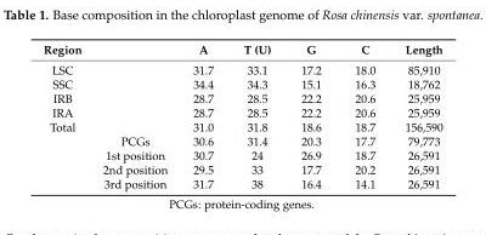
<table><thead><tr><td>Region</td><td></td><td>A</td><td>T (U)</td><td>G</td><td>C</td><td>Length</td></tr></thead><tbody><tr><td>LSC</td><td></td><td>31.7</td><td>33.1</td><td>17.2</td><td>18.0</td><td>85,910</td></tr><tr><td>SSC</td><td></td><td>34.4</td><td>34.3</td><td>15.1</td><td>16.3</td><td>18,762</td></tr><tr><td>IRB</td><td></td><td>28.7</td><td>28.5</td><td>22.2</td><td>20.6</td><td>25,959</td></tr><tr><td>IRA</td><td></td><td>28.7</td><td>28.5</td><td>22.2</td><td>20.6</td><td>25,959</td></tr><tr><td rowspan="5">Total</td><td></td><td>31.0</td><td>31.8</td><td>18.6</td><td>18.7</td><td>156,590</td></tr><tr><td>PCGs</td><td>30.6</td><td>31.4</td><td>20.3</td><td>17.7</td><td>79,773</td></tr><tr><td>1st position</td><td>30.7</td><td>24</td><td>26.9</td><td>18.7</td><td>26,591</td></tr><tr><td>2nd position</td><td>29.5</td><td>33</td><td>17.7</td><td>20.2</td><td>26,591</td></tr><tr><td>3rd position</td><td>31.7</td><td>38</td><td>16.4</td><td>14.1</td><td>26,591</td></tr></tbody></table>